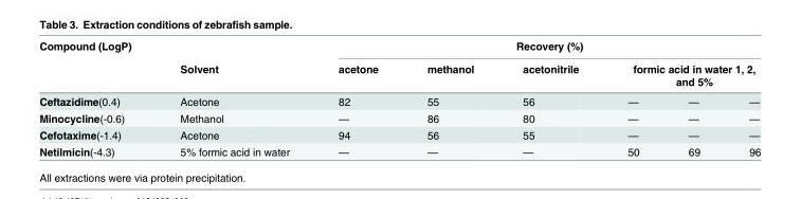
<table><thead><tr><td rowspan="3">Compound (LogP) Ceftazidime(0.4)</td><td rowspan="3">Solvent Acetone</td><td colspan="6">Recovery (%)</td></tr><tr><td rowspan="2">acetone 82</td><td rowspan="2">methanol 55</td><td rowspan="2">acetonitrile 56</td><td colspan="3">formic acid in water 1, 2, and 5%</td></tr><tr><td>—</td><td>—</td><td>—</td></tr></thead><tbody><tr><td>Minocycline(-0.6)</td><td>Methanol</td><td>—</td><td>86</td><td>80</td><td>—</td><td>—</td><td>—</td></tr><tr><td>Cefotaxime(-1.4)</td><td>Acetone</td><td>94</td><td>56</td><td>55</td><td>—</td><td>—</td><td>—</td></tr><tr><td>Netilmicin(-4.3)</td><td>5% formic acid in water</td><td>—</td><td>—</td><td>—</td><td>50</td><td>69</td><td>96</td></tr></tbody></table>